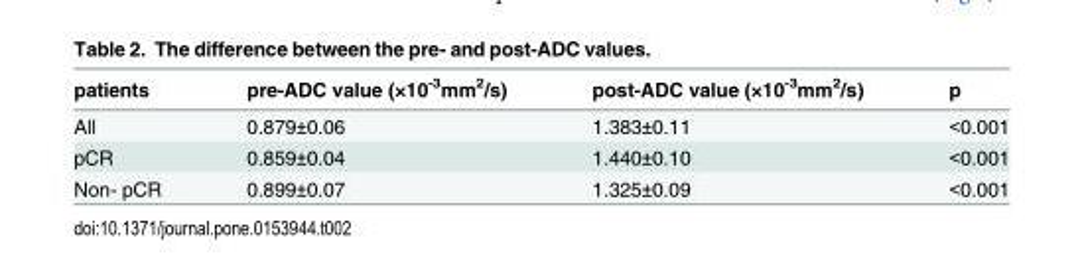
<table><thead><tr><td>patients</td><td>pre-ADC value (×10<sup>-3</sup>mm<sup>2</sup>/s)</td><td>post-ADC value (×10<sup>-3</sup>mm<sup>2</sup>/s)</td><td>p</td></tr></thead><tbody><tr><td>All</td><td>0.879±0.06</td><td>1.383±0.11</td><td>&lt;0.001</td></tr><tr><td>pCR</td><td>0.859±0.04</td><td>1.440±0.10</td><td>&lt;0.001</td></tr><tr><td>Non- pCR</td><td>0.899±0.07</td><td>1.325±0.09</td><td>&lt;0.001</td></tr></tbody></table>